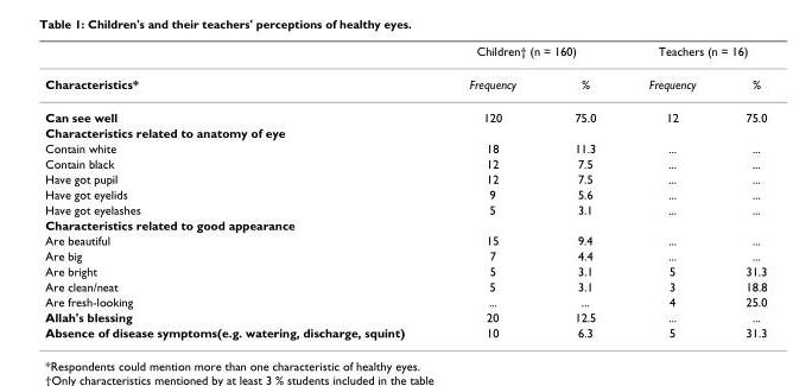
<table><thead><tr><td rowspan="2">Characteristics*</td><td colspan="2">Children† (n = 160)</td><td colspan="2">Teachers (n = 16)</td></tr><tr><td>Frequency</td><td>%</td><td>Frequency</td><td>%</td></tr></thead><tbody><tr><td>Can see well</td><td>120</td><td>75.0</td><td>12</td><td>75.0</td></tr><tr><td colspan="5">Characteristics related to anatomy of eye</td></tr><tr><td>Contain white</td><td>18</td><td>11.3</td><td>...</td><td>...</td></tr><tr><td>Contain black</td><td>12</td><td>7.5</td><td>...</td><td>...</td></tr><tr><td>Have got pupil</td><td>12</td><td>7.5</td><td>...</td><td>...</td></tr><tr><td>Have got eyelids</td><td>9</td><td>5.6</td><td>...</td><td>...</td></tr><tr><td>Have got eyelashes</td><td>5</td><td>3.1</td><td>...</td><td>...</td></tr><tr><td colspan="5">Characteristics related to good appearance</td></tr><tr><td>Are beautiful</td><td>15</td><td>9.4</td><td>...</td><td>...</td></tr><tr><td>Are big</td><td>7</td><td>4.4</td><td>...</td><td>...</td></tr><tr><td>Are bright</td><td>5</td><td>3.1</td><td>5</td><td>31.3</td></tr><tr><td>Are clean/neat</td><td>5</td><td>3.1</td><td>3</td><td>18.8</td></tr><tr><td>Are fresh-looking</td><td>...</td><td>...</td><td>4</td><td>25.0</td></tr><tr><td>Allah&#x27;s blessing</td><td>20</td><td>12.5</td><td>...</td><td>...</td></tr><tr><td>Absence of disease symptoms(e.g. watering, discharge, squint)</td><td>10</td><td>6.3</td><td>5</td><td>31.3</td></tr></tbody></table>